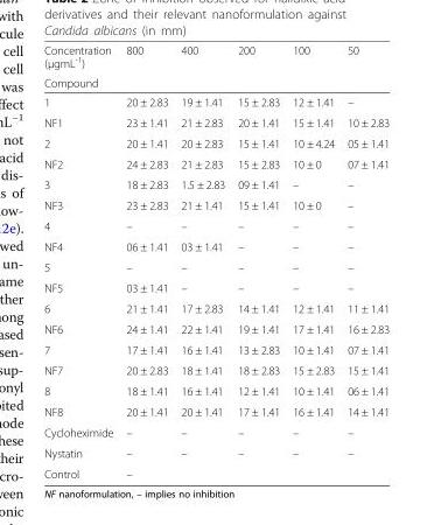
<table><thead><tr><td rowspan="2">Concentration (μgmL<sup>-1</sup>) Compound</td><td rowspan="2">800</td><td rowspan="2">400</td><td rowspan="2">200</td><td rowspan="2">100</td><td rowspan="2">50</td></tr><tr></tr></thead><tbody><tr><td>1</td><td>20 ± 2.83</td><td>19 ± 1.41</td><td>15 ± 2.83</td><td>12 ± 1.41</td><td>–</td></tr><tr><td>NF1</td><td>23 ± 1.41</td><td>21 ± 2.83</td><td>20 ± 1.41</td><td>15 ± 1.41</td><td>10 ± 2.83</td></tr><tr><td>2</td><td>20 ± 1.41</td><td>20 ± 2.83</td><td>15 ± 1.41</td><td>10 ± 4.24</td><td>05 ± 1.41</td></tr><tr><td>NF2</td><td>24 ± 2.83</td><td>21 ± 2.83</td><td>15 ± 2.83</td><td>10 ± 0</td><td>07 ± 1.41</td></tr><tr><td>3</td><td>18 ± 2.83</td><td>1.5 ± 2.83</td><td>09 ± 1.41</td><td>–</td><td>–</td></tr><tr><td>NF3</td><td>23 ± 2.83</td><td>21 ± 1.41</td><td>15 ± 1.41</td><td>10 ± 0</td><td>–</td></tr><tr><td>4</td><td>–</td><td>–</td><td>–</td><td>–</td><td>–</td></tr><tr><td>NF4</td><td>06 ± 1.41</td><td>03 ± 1.41</td><td>–</td><td>–</td><td>–</td></tr><tr><td>5</td><td>–</td><td>–</td><td>–</td><td>–</td><td>–</td></tr><tr><td>NF5</td><td>03 ± 1.41</td><td>–</td><td>–</td><td>–</td><td>–</td></tr><tr><td>6</td><td>21 ± 1.41</td><td>17 ± 2.83</td><td>14 ± 1.41</td><td>12 ± 1.41</td><td>11 ± 1.41</td></tr><tr><td>NF6</td><td>24 ± 1.41</td><td>22 ± 1.41</td><td>19 ± 1.41</td><td>17 ± 1.41</td><td>16 ± 2.83</td></tr><tr><td>7</td><td>17 ± 1.41</td><td>16 ± 1.41</td><td>13 ± 2.83</td><td>10 ± 1.41</td><td>07 ± 1.41</td></tr><tr><td>NF7</td><td>20 ± 2.83</td><td>18 ± 1.41</td><td>18 ± 2.83</td><td>15 ± 2.83</td><td>15 ± 1.41</td></tr><tr><td>8</td><td>18 ± 1.41</td><td>16 ± 1.41</td><td>12 ± 1.41</td><td>10 ± 1.41</td><td>06 ± 1.41</td></tr><tr><td>NF8</td><td>20 ± 1.41</td><td>20 ± 1.41</td><td>17 ± 1.41</td><td>16 ± 1.41</td><td>14 ± 1.41</td></tr><tr><td>Cycloheximide</td><td>–</td><td>–</td><td>–</td><td>–</td><td>–</td></tr><tr><td>Nystatin</td><td>–</td><td>–</td><td>–</td><td>–</td><td>–</td></tr><tr><td>Control</td><td>–</td><td></td><td></td><td></td><td></td></tr></tbody></table>